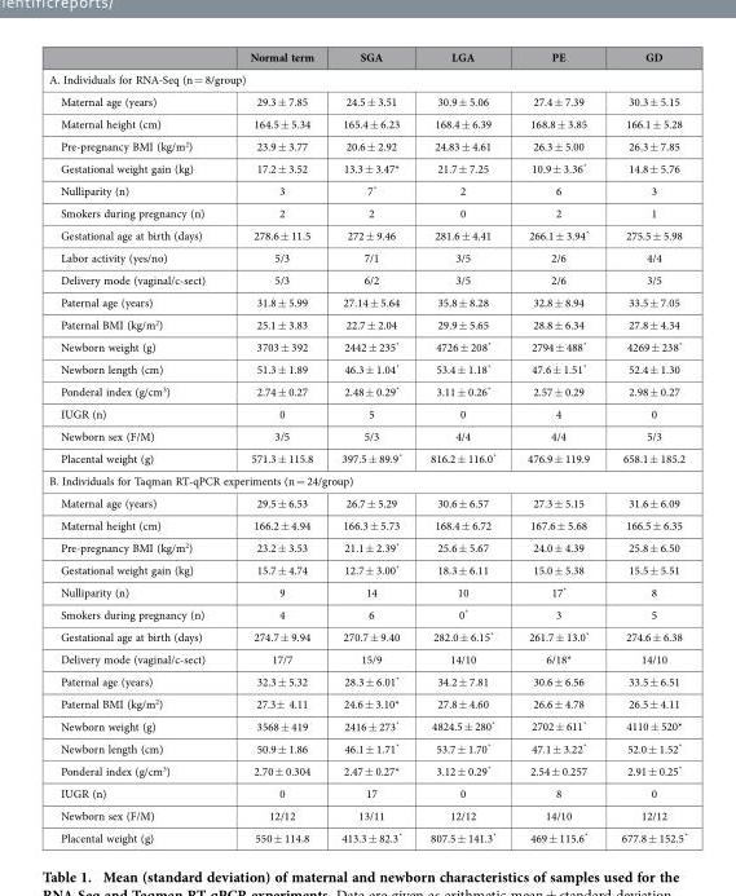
<table><thead><tr><td></td><td>Normal term</td><td>SGA</td><td>LGA</td><td>PE</td><td>GD</td></tr></thead><tbody><tr><td colspan="6">A. Individuals for RNA-Seq (n = 8/group)</td></tr><tr><td>Maternal age (years)</td><td>29.3 ± 7.85</td><td>24.5 ± 3.51</td><td>30.9 ± 5.06</td><td>27.4 ± 7.39</td><td>30.3 ± 5.15</td></tr><tr><td>Maternal height (cm)</td><td>164.5 ± 5.34</td><td>165.4 ± 6.23</td><td>168.4 ± 6.39</td><td>168.8 ± 3.85</td><td>166.1 ± 5.28</td></tr><tr><td>Pre-pregnancy BMI (kg/m2)</td><td>23.9 ± 3.77</td><td>20.6 ± 2.92</td><td>24.83 ± 4.61</td><td>26.3 ± 5.00</td><td>26.3 ± 7.85</td></tr><tr><td>Gestational weight gain (kg)</td><td>17.2 ± 3.52</td><td>13.3 ± 3.47*</td><td>21.7 ± 7.25</td><td>10.9 ± 3.36*</td><td>14.8 ± 5.76</td></tr><tr><td>Nulliparity (n)</td><td>3</td><td>7*</td><td>2</td><td>6</td><td>3</td></tr><tr><td>Smokers during pregnancy (n)</td><td>2</td><td>2</td><td>0</td><td>2</td><td>1</td></tr><tr><td>Gestational age at birth (days)</td><td>278.6 ± 11.5</td><td>272 ± 9.46</td><td>281.6 ± 4.41</td><td>266.1 ± 3.94*</td><td>275.5 ± 5.98</td></tr><tr><td>Labor activity (yes/no)</td><td>5/3</td><td>7/1</td><td>3/5</td><td>2/6</td><td>4/4</td></tr><tr><td>Delivery mode (vaginal/c-sect)</td><td>5/3</td><td>6/2</td><td>3/5</td><td>2/6</td><td>3/5</td></tr><tr><td>Paternal age (years)</td><td>31.8 ± 5.99</td><td>27.14 ± 5.64</td><td>35.8 ± 8.28</td><td>32.8 ± 8.94</td><td>33.5 ± 7.05</td></tr><tr><td>Paternal BMI (kg/m<sup>2</sup>)</td><td>25.1 ± 3.83</td><td>22.7 ± 2.04</td><td>29.9 ± 5.65</td><td>28.8 ± 6.34</td><td>27.8 ± 4.34</td></tr><tr><td>Newborn weight (g)</td><td>3703 ± 392</td><td>2442 ± 235*</td><td>4726 ± 208*</td><td>2794 ± 488*</td><td>4269 ± 238*</td></tr><tr><td>Newborn length (cm)</td><td>51.3 ± 1.89</td><td>46.3 ± 1.04*</td><td>53.4 ± 1.18*</td><td>47.6 ± 1.51*</td><td>52.4 ± 1.30</td></tr><tr><td>Ponderal index (g/cm<sup>3</sup>)</td><td>2.74 ± 0.27</td><td>2.48 ± 0.29*</td><td>3.11 ± 0.26*</td><td>2.57 ± 0.29</td><td>2.98 ± 0.27</td></tr><tr><td>IUGR (n)</td><td>0</td><td>5</td><td>0</td><td>4</td><td>0</td></tr><tr><td>Newborn sex (F/M)</td><td>3/5</td><td>5/3</td><td>4/4</td><td>4/4</td><td>5/3</td></tr><tr><td>Placental weight (g)</td><td>571.3 ± 115.8</td><td>397.5 ± 89.9*</td><td>816.2 ± 116.0*</td><td>476.9 ± 119.9</td><td>658.1 ± 185.2</td></tr><tr><td colspan="6">B. Individuals for Taqman RT-qPCR experiments (n = 24/group)</td></tr><tr><td>Maternal age (years)</td><td>29.5 ± 6.53</td><td>26.7 ± 5.29</td><td>30.6 ± 6.57</td><td>27.3 ± 5.15</td><td>31.6 ± 6.09</td></tr><tr><td>Maternal height (cm)</td><td>166.2 ± 4.94</td><td>166.3 ± 5.73</td><td>168.4 ± 6.72</td><td>167.6 ± 5.68</td><td>166.5 ± 6.35</td></tr><tr><td>Pre-pregnancy BMI (kg/m2)</td><td>23.2 ± 3.53</td><td>21.1 ± 2.39*</td><td>25.6 ± 5.67</td><td>24.0 ± 4.39</td><td>25.8 ± 6.50</td></tr><tr><td>Gestational weight gain (kg)</td><td>15.7 ± 4.74</td><td>12.7 ± 3.00*</td><td>18.3 ± 6.11</td><td>15.0 ± 5.38</td><td>15.5 ± 5.51</td></tr><tr><td>Nulliparity (n)</td><td>9</td><td>14</td><td>10</td><td>17*</td><td>8</td></tr><tr><td>Smokers during pregnancy (n)</td><td>4</td><td>6</td><td>0*</td><td>3</td><td>5</td></tr><tr><td>Gestational age at birth (days)</td><td>274.7 ± 9.94</td><td>270.7 ± 9.40</td><td>282.0 ± 6.15*</td><td>261.7 ± 13.0*</td><td>274.6 ± 6.38</td></tr><tr><td>Delivery mode (vaginal/c-sect)</td><td>17/7</td><td>15/9</td><td>14/10</td><td>6/18*</td><td>14/10</td></tr><tr><td>Paternal age (years)</td><td>32.3 ± 5.32</td><td>28.3 ± 6.01*</td><td>34.2 ± 7.81</td><td>30.6 ± 6.56</td><td>33.5 ± 6.51</td></tr><tr><td>Paternal BMI (kg/m<sup>2</sup>)</td><td>27.3± 4.11</td><td>24.6 ± 3.10*</td><td>27.8 ± 4.60</td><td>26.6 ± 4.78</td><td>26.5 ± 4.11</td></tr><tr><td>Newborn weight (g)</td><td>3568 ± 419</td><td>2416 ± 273*</td><td>4824.5 ± 280*</td><td>2702 ± 611*</td><td>4110 ± 520*</td></tr><tr><td>Newborn length (cm)</td><td>50.9 ± 1.86</td><td>46.1 ± 1.71*</td><td>53.7 ± 1.70*</td><td>47.1 ± 3.22*</td><td>52.0 ± 1.52*</td></tr><tr><td>Ponderal index (g/cm<sup>3</sup>)</td><td>2.70 ± 0.304</td><td>2.47 ± 0.27*</td><td>3.12 ± 0.29*</td><td>2.54 ± 0.257</td><td>2.91 ± 0.25*</td></tr><tr><td>IUGR (n)</td><td>0</td><td>17</td><td>0</td><td>8</td><td>0</td></tr><tr><td>Newborn sex (F/M)</td><td>12/12</td><td>13/11</td><td>12/12</td><td>14/10</td><td>12/12</td></tr><tr><td>Placental weight (g)</td><td>550 ± 114.8</td><td>413.3 ± 82.3*</td><td>807.5 ± 141.3*</td><td>469 ± 115.6*</td><td>677.8 ± 152.5*</td></tr></tbody></table>